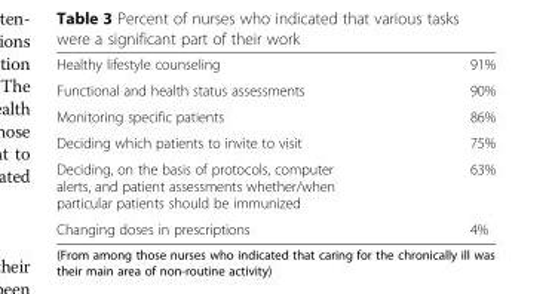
<table><tbody><tr><td>Healthy lifestyle counseling</td><td>91%</td></tr><tr><td>Functional and health status assessments</td><td>90%</td></tr><tr><td>Monitoring specific patients</td><td>86%</td></tr><tr><td>Deciding which patients to invite to visit</td><td>75%</td></tr><tr><td>Deciding, on the basis of protocols, computer alerts, and patient assessments whether/when particular patients should be immunized</td><td>63%</td></tr><tr><td>Changing doses in prescriptions</td><td>4%</td></tr></tbody></table>